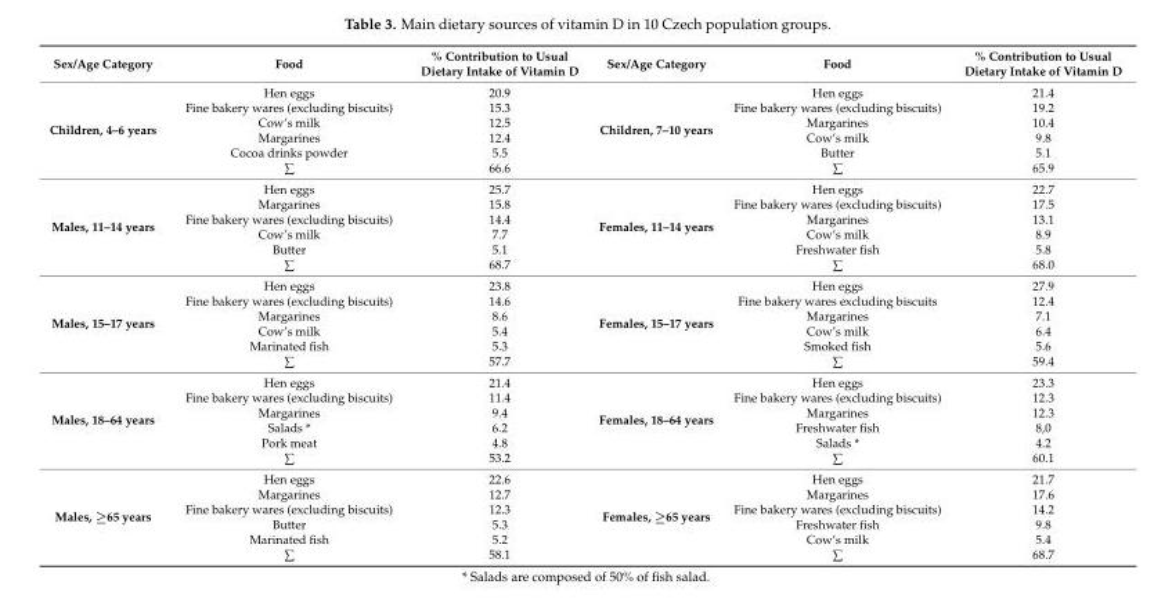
<table><thead><tr><td>Sex/Age Category</td><td>Food</td><td>% Contribution to Usual Dietary Intake of Vitamin D</td><td>Sex/Age Category</td><td>Food</td><td>% Contribution to Usual Dietary Intake of Vitamin D</td></tr></thead><tbody><tr><td rowspan="6">Children, 4–6 years</td><td>Hen eggs</td><td>20.9</td><td rowspan="6">Children, 7–10 years</td><td>Hen eggs</td><td>21.4</td></tr><tr><td>Fine bakery wares (excluding biscuits)</td><td>15.3</td><td>Fine bakery wares (excluding biscuits)</td><td>19.2</td></tr><tr><td>Cow’s milk</td><td>12.5</td><td>Margarines</td><td>10.4</td></tr><tr><td>Margarines</td><td>12.4</td><td>Cow’s milk</td><td>9.8</td></tr><tr><td>Cocoa drinks powder</td><td>5.5</td><td>Butter</td><td>5.1</td></tr><tr><td>∑</td><td>66.6</td><td>∑</td><td>65.9</td></tr><tr><td rowspan="6">Males, 11–14 years</td><td>Hen eggs</td><td>25.7</td><td rowspan="6">Females, 11–14 years</td><td>Hen eggs</td><td>22.7</td></tr><tr><td>Margarines</td><td>15.8</td><td>Fine bakery wares (excluding biscuits)</td><td>17.5</td></tr><tr><td>Fine bakery wares (excluding biscuits)</td><td>14.4</td><td>Margarines</td><td>13.1</td></tr><tr><td>Cow’s milk</td><td>7.7</td><td>Cow’s milk</td><td>8.9</td></tr><tr><td>Butter</td><td>5.1</td><td>Freshwater fish</td><td>5.8</td></tr><tr><td>∑</td><td>68.7</td><td>∑</td><td>68.0</td></tr><tr><td rowspan="6">Males, 15–17 years</td><td>Hen eggs</td><td>23.8</td><td rowspan="6">Females, 15–17 years</td><td>Hen eggs</td><td>27.9</td></tr><tr><td>Fine bakery wares (excluding biscuits)</td><td>14.6</td><td>Fine bakery wares excluding biscuits</td><td>12.4</td></tr><tr><td>Margarines</td><td>8.6</td><td>Margarines</td><td>7.1</td></tr><tr><td>Cow’s milk</td><td>5.4</td><td>Cow’s milk</td><td>6.4</td></tr><tr><td>Marinated fish</td><td>5.3</td><td>Smoked fish</td><td>5.6</td></tr><tr><td>∑</td><td>57.7</td><td>∑</td><td>59.4</td></tr><tr><td rowspan="6">Males, 18–64 years</td><td>Hen eggs</td><td>21.4</td><td rowspan="6">Females, 18–64 years</td><td>Hen eggs</td><td>23.3</td></tr><tr><td>Fine bakery wares (excluding biscuits)</td><td>11.4</td><td>Fine bakery wares (excluding biscuits)</td><td>12.3</td></tr><tr><td>Margarines</td><td>9.4</td><td>Margarines</td><td>12.3</td></tr><tr><td>Salads *</td><td>6.2</td><td>Freshwater fish</td><td>8,0</td></tr><tr><td>Pork meat</td><td>4.8</td><td>Salads *</td><td>4.2</td></tr><tr><td>∑</td><td>53.2</td><td>∑</td><td>60.1</td></tr><tr><td rowspan="6">Males, ≥65 years</td><td>Hen eggs</td><td>22.6</td><td rowspan="6">Females, ≥65 years</td><td>Hen eggs</td><td>21.7</td></tr><tr><td>Margarines</td><td>12.7</td><td>Margarines</td><td>17.6</td></tr><tr><td>Fine bakery wares (excluding biscuits)</td><td>12.3</td><td>Fine bakery wares (excluding biscuits)</td><td>14.2</td></tr><tr><td>Butter</td><td>5.3</td><td>Freshwater fish</td><td>9.8</td></tr><tr><td>Marinated fish</td><td>5.2</td><td>Cow’s milk</td><td>5.4</td></tr><tr><td>∑</td><td>58.1</td><td>∑</td><td>68.7</td></tr></tbody></table>